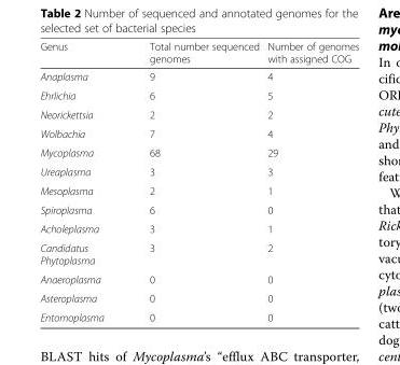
<table><thead><tr><td>Genus</td><td>Total number sequenced genomes</td><td>Number of genomes with assigned COG</td></tr></thead><tbody><tr><td>Anaplasma</td><td>9</td><td>4</td></tr><tr><td>Ehrlichia</td><td>6</td><td>5</td></tr><tr><td>Neorickettsia</td><td>2</td><td>2</td></tr><tr><td>Wolbachia</td><td>7</td><td>4</td></tr><tr><td>Mycoplasma</td><td>68</td><td>29</td></tr><tr><td>Ureaplasma</td><td>3</td><td>3</td></tr><tr><td>Mesoplasma</td><td>2</td><td>1</td></tr><tr><td>Spiroplasma</td><td>6</td><td>0</td></tr><tr><td>Acholeplasma</td><td>3</td><td>1</td></tr><tr><td>Candidatus Phytoplasma</td><td>3</td><td>2</td></tr><tr><td>Anaeroplasma</td><td>0</td><td>0</td></tr><tr><td>Asteroplasma</td><td>0</td><td>0</td></tr><tr><td>Entomoplasma</td><td>0</td><td>0</td></tr></tbody></table>